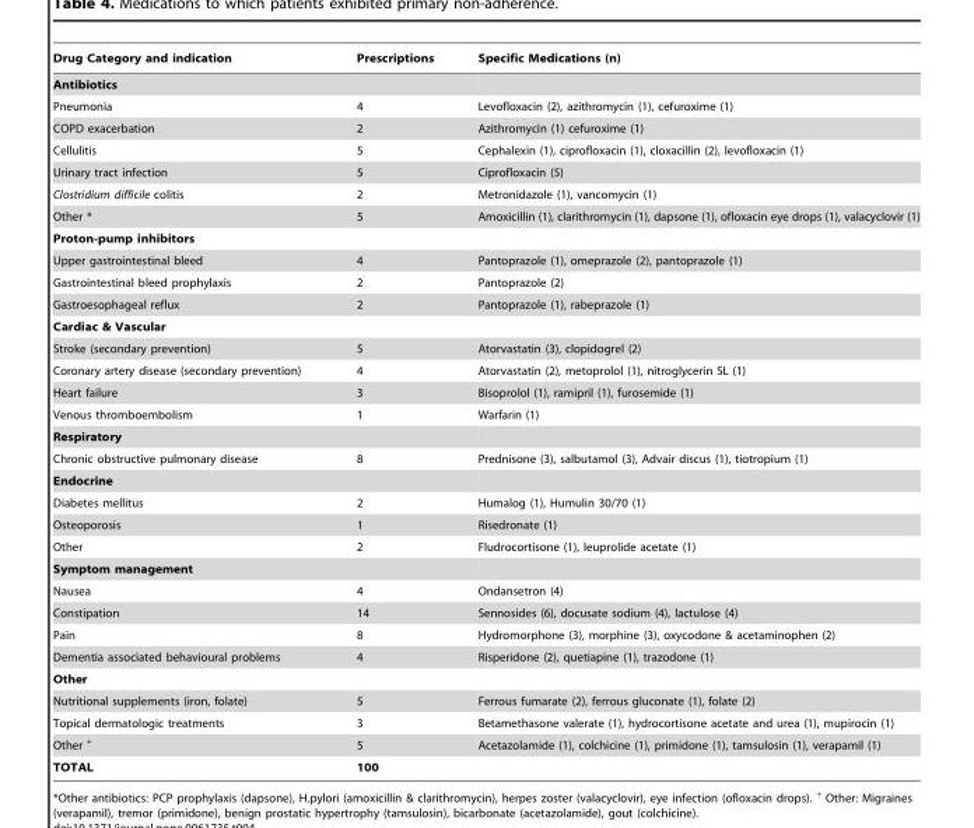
<table><thead><tr><td>Drug Category and indication</td><td>Prescriptions</td><td>Specific Medications (n)</td></tr></thead><tbody><tr><td colspan="3">Antibiotics</td></tr><tr><td>Pneumonia</td><td>4</td><td>Levofloxacin (2), azithromycin (1), cefuroxime (1)</td></tr><tr><td>COPD exacerbation</td><td>2</td><td>Azithromycin (1) cefuroxime (1)</td></tr><tr><td>Cellulitis</td><td>5</td><td>Cephalexin (1), ciprofloxacin (1), cloxacillin (2), levofloxacin (1)</td></tr><tr><td>Urinary tract infection</td><td>5</td><td>Ciprofloxacin (5)</td></tr><tr><td>Clostridium difficile colitis</td><td>2</td><td>Metronidazole (1), vancomycin (1)</td></tr><tr><td>Other *</td><td>5</td><td>Amoxicillin (1), clarithromycin (1), dapsone (1), ofloxacin eye drops (1), valacyclovir (1)</td></tr><tr><td colspan="3">Proton-pump inhibitors</td></tr><tr><td>Upper gastrointestinal bleed</td><td>4</td><td>Pantoprazole (1), omeprazole (2), pantoprazole (1)</td></tr><tr><td>Gastrointestinal bleed prophylaxis</td><td>2</td><td>Pantoprazole (2)</td></tr><tr><td>Gastroesophageal reflux</td><td>2</td><td>Pantoprazole (1), rabeprazole (1)</td></tr><tr><td colspan="3">Cardiac &amp; Vascular</td></tr><tr><td>Stroke (secondary prevention)</td><td>5</td><td>Atorvastatin (3), clopidogrel (2)</td></tr><tr><td>Coronary artery disease (secondary prevention)</td><td>4</td><td>Atorvastatin (2), metoprolol (1), nitroglycerin SL (1)</td></tr><tr><td>Heart failure</td><td>3</td><td>Bisoprolol (1), ramipril (1), furosemide (1)</td></tr><tr><td>Venous thromboembolism</td><td>1</td><td>Warfarin (1)</td></tr><tr><td colspan="3">Respiratory</td></tr><tr><td>Chronic obstructive pulmonary disease</td><td>8</td><td>Prednisone (3), salbutamol (3), Advair discus (1), tiotropium (1)</td></tr><tr><td colspan="3">Endocrine</td></tr><tr><td>Diabetes mellitus</td><td>2</td><td>Humalog (1), Humulin 30/70 (1)</td></tr><tr><td>Osteoporosis</td><td>1</td><td>Risedronate (1)</td></tr><tr><td>Other</td><td>2</td><td>Fludrocortisone (1), leuprolide acetate (1)</td></tr><tr><td colspan="3">Symptom management</td></tr><tr><td>Nausea</td><td>4</td><td>Ondansetron (4)</td></tr><tr><td>Constipation</td><td>14</td><td>Sennosides (6), docusate sodium (4), lactulose (4)</td></tr><tr><td>Pain</td><td>8</td><td>Hydromorphone (3), morphine (3), oxycodone &amp; acetaminophen (2)</td></tr><tr><td>Dementia associated behavioural problems</td><td>4</td><td>Risperidone (2), quetiapine (1), trazodone (1)</td></tr><tr><td colspan="3">Other</td></tr><tr><td>Nutritional supplements (iron, folate)</td><td>5</td><td>Ferrous fumarate (2), ferrous gluconate (1), folate (2)</td></tr><tr><td>Topical dermatologic treatments</td><td>3</td><td>Betamethasone valerate (1), hydrocortisone acetate and urea (1), mupirocin (1)</td></tr><tr><td>Other <sup>+</sup></td><td>5</td><td>Acetazolamide (1), colchicine (1), primidone (1), tamsulosin (1), verapamil (1)</td></tr><tr><td>TOTAL</td><td>100</td><td></td></tr></tbody></table>